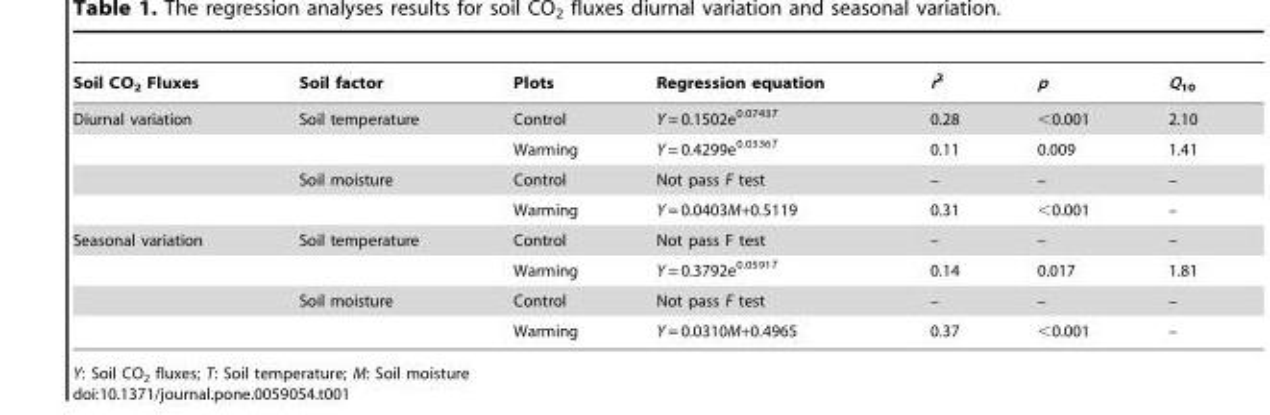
<table><thead><tr><td>Soil CO<sub>2</sub> Fluxes</td><td>Soil factor</td><td>Plots</td><td>Regression equation</td><td>r<sup>2</sup></td><td>p</td><td>Q<sub>10</sub></td></tr></thead><tbody><tr><td rowspan="4">Diurnal variation</td><td>Soil temperature</td><td>Control</td><td>Y = 0.1502e<sup>0.0743T</sup></td><td>0.28</td><td>&lt;0.001</td><td>2.10</td></tr><tr><td></td><td>Warming</td><td>Y = 0.4299e<sup>0.0336T</sup></td><td>0.11</td><td>0.009</td><td>1.41</td></tr><tr><td>Soil moisture</td><td>Control</td><td>Not pass F test</td><td>–</td><td>–</td><td>–</td></tr><tr><td></td><td>Warming</td><td>Y = 0.0403M+0.5119</td><td>0.31</td><td>&lt;0.001</td><td>–</td></tr><tr><td rowspan="4">Seasonal variation</td><td>Soil temperature</td><td>Control</td><td>Not pass F test</td><td>–</td><td>–</td><td>–</td></tr><tr><td></td><td>Warming</td><td>Y = 0.3792e<sup>0.0591T</sup></td><td>0.14</td><td>0.017</td><td>1.81</td></tr><tr><td>Soil moisture</td><td>Control</td><td>Not pass F test</td><td>–</td><td>–</td><td>–</td></tr><tr><td></td><td>Warming</td><td>Y = 0.0310M+0.4965</td><td>0.37</td><td>&lt;0.001</td><td>–</td></tr></tbody></table>